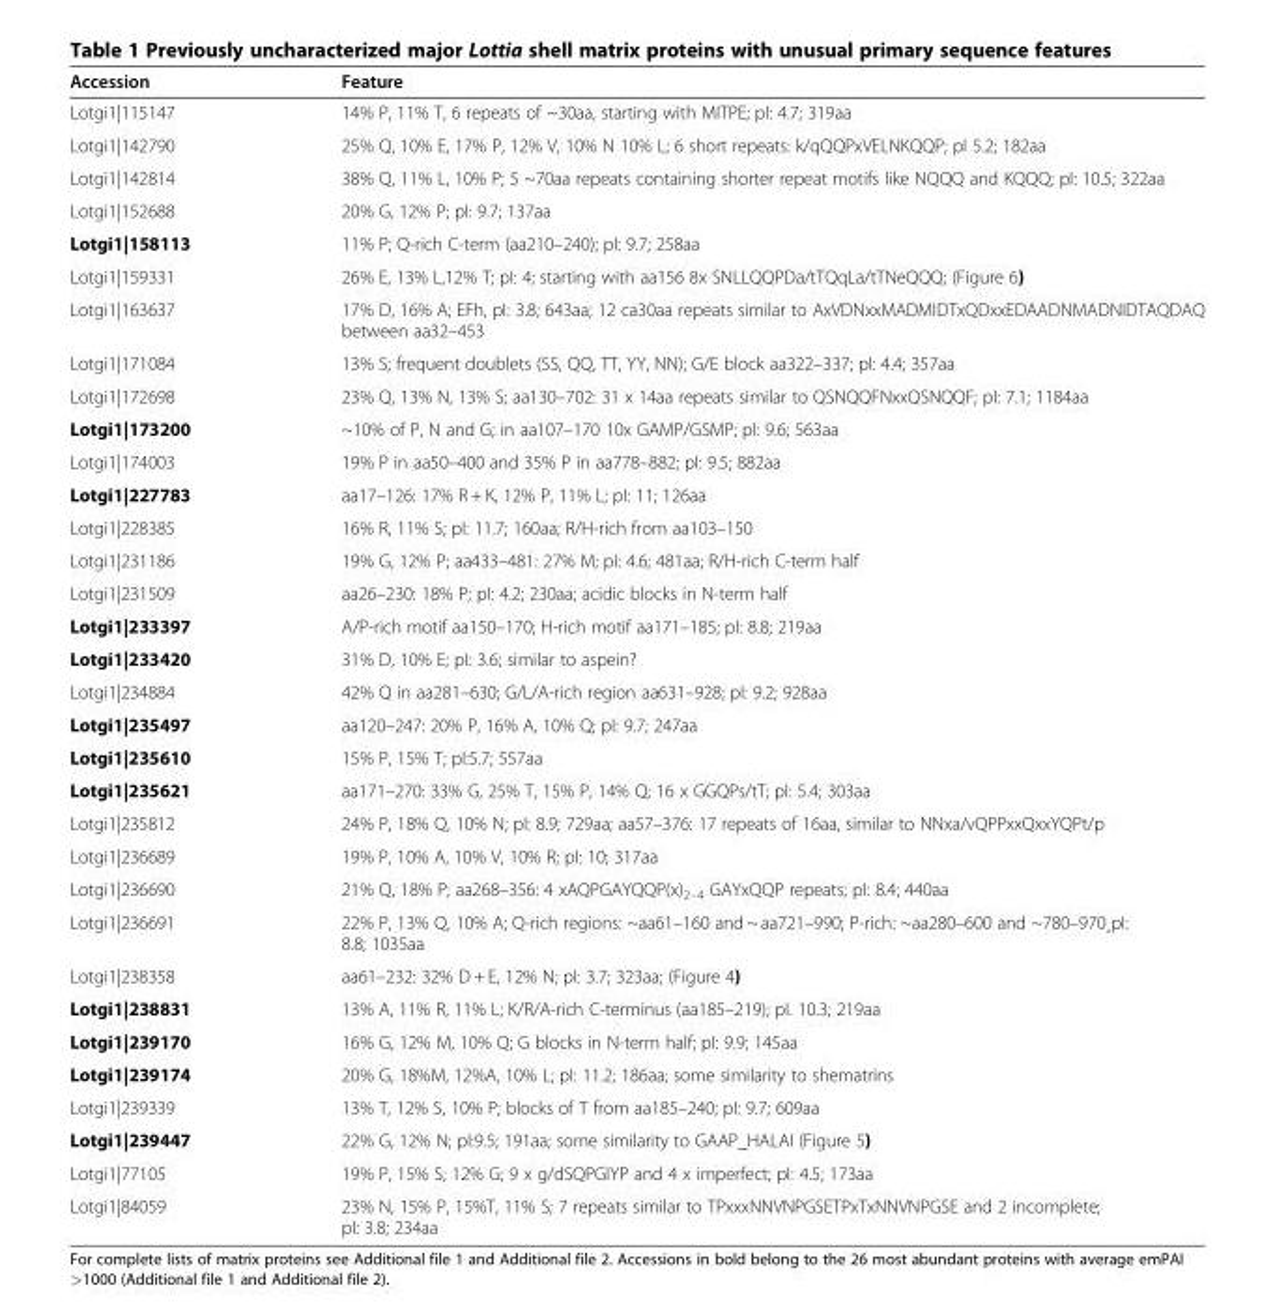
<table><thead><tr><td>Accession</td><td>Feature</td></tr></thead><tbody><tr><td>Lotgi1|115147</td><td>14% P, 11% T, 6 repeats of ~30aa, starting with MITPE; pI: 4.7; 319aa</td></tr><tr><td>Lotgi1|142790</td><td>25% Q, 10% E, 17% P, 12% V, 10% N 10% L; 6 short repeats: k/qQQPxVELNKQQP; pI 5.2; 182aa</td></tr><tr><td>Lotgi1|142814</td><td>38% Q, 11% L, 10% P; 5 ~70aa repeats containing shorter repeat motifs like NQQQ and KQQQ; pI: 10.5; 322aa</td></tr><tr><td>Lotgi1|152688</td><td>20% G, 12% P; pI: 9.7; 137aa</td></tr><tr><td>Lotgi1|158113</td><td>11% P; Q-rich C-term (aa210–240); pI: 9.7; 258aa</td></tr><tr><td>Lotgi1|159331</td><td>26% E, 13% L,12% T; pI: 4; starting with aa156 8x SNLLQQPDa/tTQqLa/tTNeQQQ; (Figure 6)</td></tr><tr><td>Lotgi1|163637</td><td>17% D, 16% A; EFh, pI: 3.8; 643aa; 12 ca30aa repeats similar to AxVDNxxMADMIDTxQDxxEDAADNMADNIDTAQDAQ between aa32–453</td></tr><tr><td>Lotgi1|171084</td><td>13% S; frequent doublets (SS, QQ, TT, YY, NN); G/E block aa322–337; pI: 4.4; 357aa</td></tr><tr><td>Lotgi1|172698</td><td>23% Q, 13% N, 13% S; aa130–702: 31 x 14aa repeats similar to QSNQQFNxxQSNQQF; pI: 7.1; 1184aa</td></tr><tr><td>Lotgi1|173200</td><td>~10% of P, N and G; in aa107–170 10x GAMP/GSMP; pI: 9.6; 563aa</td></tr><tr><td>Lotgi1|174003</td><td>19% P in aa50–400 and 35% P in aa778–882; pI: 9.5; 882aa</td></tr><tr><td>Lotgi1|227783</td><td>aa17–126: 17% R + K, 12% P, 11% L; pI: 11; 126aa</td></tr><tr><td>Lotgi1|228385</td><td>16% R, 11% S; pI: 11.7; 160aa; R/H-rich from aa103–150</td></tr><tr><td>Lotgi1|231186</td><td>19% G, 12% P; aa433–481: 27% M; pI: 4.6; 481aa; R/H-rich C-term half</td></tr><tr><td>Lotgi1|231509</td><td>aa26–230: 18% P; pI: 4.2; 230aa; acidic blocks in N-term half</td></tr><tr><td>Lotgi1|233397</td><td>A/P-rich motif aa150–170; H-rich motif aa171–185; pI: 8.8; 219aa</td></tr><tr><td>Lotgi1|233420</td><td>31% D, 10% E; pI: 3.6; similar to aspein?</td></tr><tr><td>Lotgi1|234884</td><td>42% Q in aa281–630; G/L/A-rich region aa631–928; pI: 9.2; 928aa</td></tr><tr><td>Lotgi1|235497</td><td>aa120–247: 20% P, 16% A, 10% Q; pI: 9.7; 247aa</td></tr><tr><td>Lotgi1|235610</td><td>15% P, 15% T; pI:5.7; 557aa</td></tr><tr><td>Lotgi1|235621</td><td>aa171–270: 33% G, 25% T, 15% P, 14% Q; 16 x GGQPs/tT; pI: 5.4; 303aa</td></tr><tr><td>Lotgi1|235812</td><td>24% P, 18% Q, 10% N; pI: 8.9; 729aa; aa57–376: 17 repeats of 16aa, similar to NNxa/vQPPxxQxxYQPt/p</td></tr><tr><td>Lotgi1|236689</td><td>19% P, 10% A, 10% V, 10% R; pI: 10; 317aa</td></tr><tr><td>Lotgi1|236690</td><td>21% Q, 18% P; aa268–356: 4 xAQPGAYQQP(x)<sub>2–4</sub> GAYxQQP repeats; pI: 8.4; 440aa</td></tr><tr><td>Lotgi1|236691</td><td>22% P, 13% Q, 10% A; Q-rich regions: ~aa61–160 and ~ aa721–990; P-rich: ~aa280–600 and ~780–970¸pI: 8.8; 1035aa</td></tr><tr><td>Lotgi1|238358</td><td>aa61–232: 32% D + E, 12% N; pI: 3.7; 323aa; (Figure 4)</td></tr><tr><td>Lotgi1|238831</td><td>13% A, 11% R, 11% L; K/R/A-rich C-terminus (aa185–219); pI. 10.3; 219aa</td></tr><tr><td>Lotgi1|239170</td><td>16% G, 12% M, 10% Q; G blocks in N-term half; pI: 9.9; 145aa</td></tr><tr><td>Lotgi1|239174</td><td>20% G, 18%M, 12%A, 10% L; pI: 11.2; 186aa; some similarity to shematrins</td></tr><tr><td>Lotgi1|239339</td><td>13% T, 12% S, 10% P; blocks of T from aa185–240; pI: 9.7; 609aa</td></tr><tr><td>Lotgi1|239447</td><td>22% G, 12% N; pI:9.5; 191aa; some similarity to GAAP_HALAI (Figure 5)</td></tr><tr><td>Lotgi1|77105</td><td>19% P, 15% S; 12% G; 9 x g/dSQPGIYP and 4 x imperfect; pI: 4.5; 173aa</td></tr><tr><td>Lotgi1|84059</td><td>23% N, 15% P, 15%T, 11% S; 7 repeats similar to TPxxxNNVNPGSETPxTxNNVNPGSE and 2 incomplete; pI: 3.8; 234aa</td></tr></tbody></table>